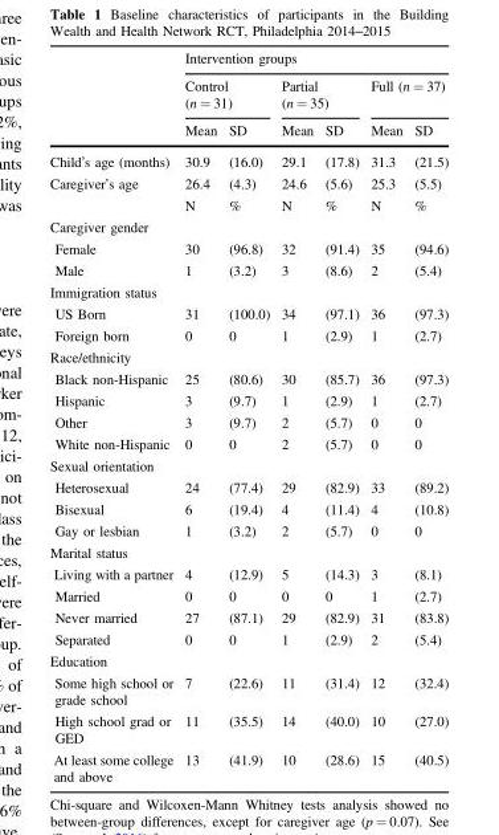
<table><thead><tr><td rowspan="3"></td><td colspan="6">Intervention groups</td></tr><tr><td colspan="2">Control (n = 31)</td><td colspan="2">Partial (n = 35)</td><td colspan="2">Full (n = 37)</td></tr><tr><td>Mean</td><td>SD</td><td>Mean</td><td>SD</td><td>Mean</td><td>SD</td></tr></thead><tbody><tr><td>Child’s age (months)</td><td>30.9</td><td>(16.0)</td><td>29.1</td><td>(17.8)</td><td>31.3</td><td>(21.5)</td></tr><tr><td rowspan="2">Caregiver’s age</td><td>26.4</td><td>(4.3)</td><td>24.6</td><td>(5.6)</td><td>25.3</td><td>(5.5)</td></tr><tr><td>N</td><td>%</td><td>N</td><td>%</td><td>N</td><td>%</td></tr><tr><td colspan="7">Caregiver gender</td></tr><tr><td>Female</td><td>30</td><td>(96.8)</td><td>32</td><td>(91.4)</td><td>35</td><td>(94.6)</td></tr><tr><td>Male</td><td>1</td><td>(3.2)</td><td>3</td><td>(8.6)</td><td>2</td><td>(5.4)</td></tr><tr><td colspan="7">Immigration status</td></tr><tr><td>US Born</td><td>31</td><td>(100.0)</td><td>34</td><td>(97.1)</td><td>36</td><td>(97.3)</td></tr><tr><td>Foreign born</td><td>0</td><td>0</td><td>1</td><td>(2.9)</td><td>1</td><td>(2.7)</td></tr><tr><td colspan="7">Race/ethnicity</td></tr><tr><td>Black non-Hispanic</td><td>25</td><td>(80.6)</td><td>30</td><td>(85.7)</td><td>36</td><td>(97.3)</td></tr><tr><td>Hispanic</td><td>3</td><td>(9.7)</td><td>1</td><td>(2.9)</td><td>1</td><td>(2.7)</td></tr><tr><td>Other</td><td>3</td><td>(9.7)</td><td>2</td><td>(5.7)</td><td>0</td><td>0</td></tr><tr><td>White non-Hispanic</td><td>0</td><td>0</td><td>2</td><td>(5.7)</td><td>0</td><td>0</td></tr><tr><td colspan="7">Sexual orientation</td></tr><tr><td>Heterosexual</td><td>24</td><td>(77.4)</td><td>29</td><td>(82.9)</td><td>33</td><td>(89.2)</td></tr><tr><td>Bisexual</td><td>6</td><td>(19.4)</td><td>4</td><td>(11.4)</td><td>4</td><td>(10.8)</td></tr><tr><td>Gay or lesbian</td><td>1</td><td>(3.2)</td><td>2</td><td>(5.7)</td><td>0</td><td>0</td></tr><tr><td colspan="7">Marital status</td></tr><tr><td>Living with a partner</td><td>4</td><td>(12.9)</td><td>5</td><td>(14.3)</td><td>3</td><td>(8.1)</td></tr><tr><td>Married</td><td>0</td><td>0</td><td>0</td><td>0</td><td>1</td><td>(2.7)</td></tr><tr><td>Never married</td><td>27</td><td>(87.1)</td><td>29</td><td>(82.9)</td><td>31</td><td>(83.8)</td></tr><tr><td>Separated</td><td>0</td><td>0</td><td>1</td><td>(2.9)</td><td>2</td><td>(5.4)</td></tr><tr><td colspan="7">Education</td></tr><tr><td>Some high school or grade school</td><td>7</td><td>(22.6)</td><td>11</td><td>(31.4)</td><td>12</td><td>(32.4)</td></tr><tr><td>High school grad or GED</td><td>11</td><td>(35.5)</td><td>14</td><td>(40.0)</td><td>10</td><td>(27.0)</td></tr><tr><td>At least some college and above</td><td>13</td><td>(41.9)</td><td>10</td><td>(28.6)</td><td>15</td><td>(40.5)</td></tr></tbody></table>